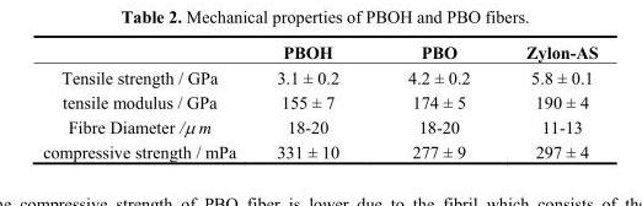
<table><thead><tr><td></td><td>PBOH</td><td>PBO</td><td>Zylon-AS</td></tr></thead><tbody><tr><td>Tensile strength / GPa</td><td>3.1 ± 0.2</td><td>4.2 ± 0.2</td><td>5.8 ± 0.1</td></tr><tr><td>tensile modulus / GPa</td><td>155 ± 7</td><td>174 ± 5</td><td>190 ± 4</td></tr><tr><td>Fibre Diameter /μ m</td><td>18-20</td><td>18-20</td><td>11-13</td></tr><tr><td>compressive strength / mPa</td><td>331 ± 10</td><td>277 ± 9</td><td>297 ± 4</td></tr></tbody></table>